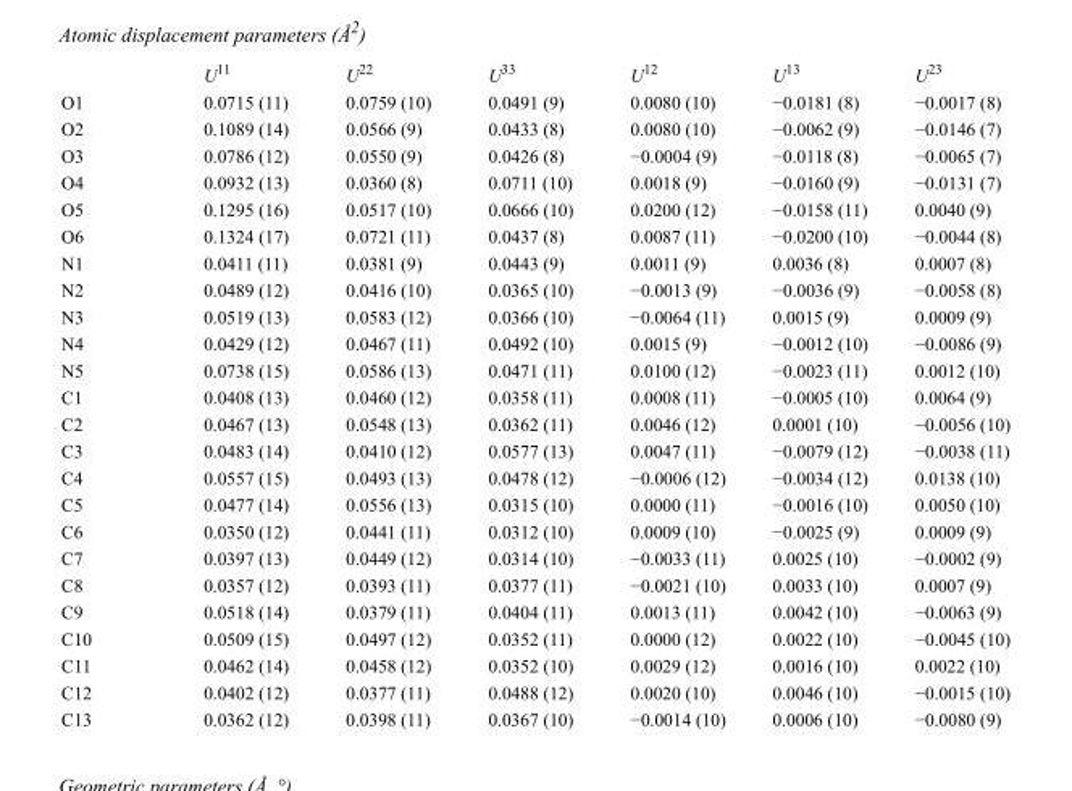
<table><thead><tr><td></td><td>U<sup>11</sup></td><td>U<sup>22</sup></td><td>U<sup>33</sup></td><td>U<sup>12</sup></td><td>U<sup>13</sup></td><td>U<sup>23</sup></td></tr></thead><tbody><tr><td>O1</td><td>0.0715 (11)</td><td>0.0759 (10)</td><td>0.0491 (9)</td><td>0.0080 (10)</td><td>−0.0181 (8)</td><td>−0.0017 (8)</td></tr><tr><td>O2</td><td>0.1089 (14)</td><td>0.0566 (9)</td><td>0.0433 (8)</td><td>0.0080 (10)</td><td>−0.0062 (9)</td><td>−0.0146 (7)</td></tr><tr><td>O3</td><td>0.0786 (12)</td><td>0.0550 (9)</td><td>0.0426 (8)</td><td>−0.0004 (9)</td><td>−0.0118 (8)</td><td>−0.0065 (7)</td></tr><tr><td>O4</td><td>0.0932 (13)</td><td>0.0360 (8)</td><td>0.0711 (10)</td><td>0.0018 (9)</td><td>−0.0160 (9)</td><td>−0.0131 (7)</td></tr><tr><td>O5</td><td>0.1295 (16)</td><td>0.0517 (10)</td><td>0.0666 (10)</td><td>0.0200 (12)</td><td>−0.0158 (11)</td><td>0.0040 (9)</td></tr><tr><td>O6</td><td>0.1324 (17)</td><td>0.0721 (11)</td><td>0.0437 (8)</td><td>0.0087 (11)</td><td>−0.0200 (10)</td><td>−0.0044 (8)</td></tr><tr><td>N1</td><td>0.0411 (11)</td><td>0.0381 (9)</td><td>0.0443 (9)</td><td>0.0011 (9)</td><td>0.0036 (8)</td><td>0.0007 (8)</td></tr><tr><td>N2</td><td>0.0489 (12)</td><td>0.0416 (10)</td><td>0.0365 (10)</td><td>−0.0013 (9)</td><td>−0.0036 (9)</td><td>−0.0058 (8)</td></tr><tr><td>N3</td><td>0.0519 (13)</td><td>0.0583 (12)</td><td>0.0366 (10)</td><td>−0.0064 (11)</td><td>0.0015 (9)</td><td>0.0009 (9)</td></tr><tr><td>N4</td><td>0.0429 (12)</td><td>0.0467 (11)</td><td>0.0492 (10)</td><td>0.0015 (9)</td><td>−0.0012 (10)</td><td>−0.0086 (9)</td></tr><tr><td>N5</td><td>0.0738 (15)</td><td>0.0586 (13)</td><td>0.0471 (11)</td><td>0.0100 (12)</td><td>−0.0023 (11)</td><td>0.0012 (10)</td></tr><tr><td>C1</td><td>0.0408 (13)</td><td>0.0460 (12)</td><td>0.0358 (11)</td><td>0.0008 (11)</td><td>−0.0005 (10)</td><td>0.0064 (9)</td></tr><tr><td>C2</td><td>0.0467 (13)</td><td>0.0548 (13)</td><td>0.0362 (11)</td><td>0.0046 (12)</td><td>0.0001 (10)</td><td>−0.0056 (10)</td></tr><tr><td>C3</td><td>0.0483 (14)</td><td>0.0410 (12)</td><td>0.0577 (13)</td><td>0.0047 (11)</td><td>−0.0079 (12)</td><td>−0.0038 (11)</td></tr><tr><td>C4</td><td>0.0557 (15)</td><td>0.0493 (13)</td><td>0.0478 (12)</td><td>−0.0006 (12)</td><td>−0.0034 (12)</td><td>0.0138 (10)</td></tr><tr><td>C5</td><td>0.0477 (14)</td><td>0.0556 (13)</td><td>0.0315 (10)</td><td>0.0000 (11)</td><td>−0.0016 (10)</td><td>0.0050 (10)</td></tr><tr><td>C6</td><td>0.0350 (12)</td><td>0.0441 (11)</td><td>0.0312 (10)</td><td>0.0009 (10)</td><td>−0.0025 (9)</td><td>0.0009 (9)</td></tr><tr><td>C7</td><td>0.0397 (13)</td><td>0.0449 (12)</td><td>0.0314 (10)</td><td>−0.0033 (11)</td><td>0.0025 (10)</td><td>−0.0002 (9)</td></tr><tr><td>C8</td><td>0.0357 (12)</td><td>0.0393 (11)</td><td>0.0377 (11)</td><td>−0.0021 (10)</td><td>0.0033 (10)</td><td>0.0007 (9)</td></tr><tr><td>C9</td><td>0.0518 (14)</td><td>0.0379 (11)</td><td>0.0404 (11)</td><td>0.0013 (11)</td><td>0.0042 (10)</td><td>−0.0063 (9)</td></tr><tr><td>C10</td><td>0.0509 (15)</td><td>0.0497 (12)</td><td>0.0352 (11)</td><td>0.0000 (12)</td><td>0.0022 (10)</td><td>−0.0045 (10)</td></tr><tr><td>C11</td><td>0.0462 (14)</td><td>0.0458 (12)</td><td>0.0352 (10)</td><td>0.0029 (12)</td><td>0.0016 (10)</td><td>0.0022 (10)</td></tr><tr><td>C12</td><td>0.0402 (12)</td><td>0.0377 (11)</td><td>0.0488 (12)</td><td>0.0020 (10)</td><td>0.0046 (10)</td><td>−0.0015 (10)</td></tr><tr><td>C13</td><td>0.0362 (12)</td><td>0.0398 (11)</td><td>0.0367 (10)</td><td>−0.0014 (10)</td><td>0.0006 (10)</td><td>−0.0080 (9)</td></tr></tbody></table>